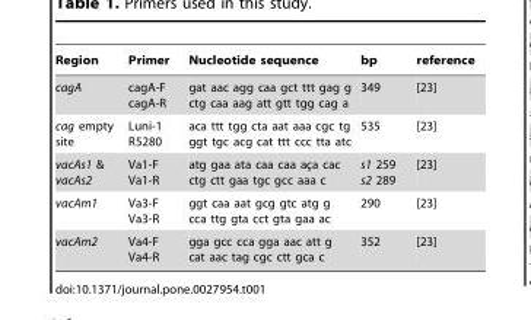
<table><thead><tr><td>Region</td><td>Primer</td><td>Nucleotide sequence</td><td>bp</td><td>reference</td></tr></thead><tbody><tr><td>cagA</td><td>cagA-F cagA-R</td><td>gat aac agg caa gct ttt gag g ctg caa aag att gtt tgg cag a</td><td>349</td><td>[23]</td></tr><tr><td>cag empty site</td><td>Luni-1 R5280</td><td>aca ttt tgg cta aat aaa cgc tg ggt tgc acg cat ttt ccc tta atc</td><td>535</td><td>[23]</td></tr><tr><td>vacAs1 &amp; vacAs2</td><td>Va1-F Va1-R</td><td>atg gaa ata caa caa ac¸a cac ctg ctt gaa tgc gcc aaa c</td><td>s1 259 s2 289</td><td>[23]</td></tr><tr><td>vacAm1</td><td>Va3-F Va3-R</td><td>ggt caa aat gcg gtc atg g cca ttg gta cct gta gaa ac</td><td>290</td><td>[23]</td></tr><tr><td>vacAm2</td><td>Va4-F Va4-R</td><td>gga gcc cca gga aac att g cat aac tag cgc ctt gca c</td><td>352</td><td>[23]</td></tr></tbody></table>